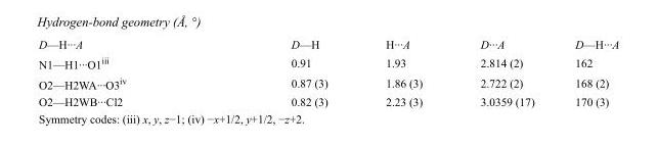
<table><tbody><tr><td>D—H···A</td><td>D—H</td><td>H···A</td><td>D···A</td><td>D—H···A</td></tr><tr><td>N1—H1···O1<sup>iii</sup></td><td>0.91</td><td>1.93</td><td>2.814 (2)</td><td>162</td></tr><tr><td>O2—H2WA···O3<sup>iv</sup></td><td>0.87 (3)</td><td>1.86 (3)</td><td>2.722 (2)</td><td>168 (2)</td></tr><tr><td>O2—H2WB···Cl2</td><td>0.82 (3)</td><td>2.23 (3)</td><td>3.0359 (17)</td><td>170 (3)</td></tr></tbody></table>